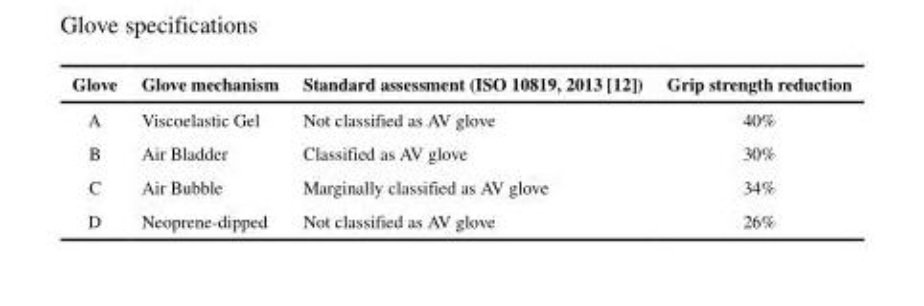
<table><thead><tr><td>Glove</td><td>Glove mechanism</td><td>Standard assessment (ISO 10819, 2013 [12])</td><td>Grip strength reduction</td></tr></thead><tbody><tr><td>A</td><td>Viscoelastic Gel</td><td>Not classified as AV glove</td><td>40%</td></tr><tr><td>B</td><td>Air Bladder</td><td>Classified as AV glove</td><td>30%</td></tr><tr><td>C</td><td>Air Bubble</td><td>Marginally classified as AV glove</td><td>34%</td></tr><tr><td>D</td><td>Neoprene-dipped</td><td>Not classified as AV glove</td><td>26%</td></tr></tbody></table>